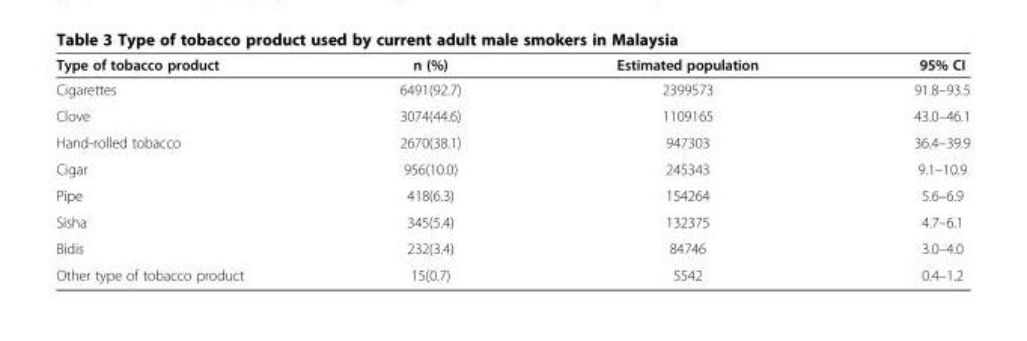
<table><thead><tr><td>Type of tobacco product</td><td>n (%)</td><td>Estimated population</td><td>95% CI</td></tr></thead><tbody><tr><td>Cigarettes</td><td>6491(92.7)</td><td>2399573</td><td>91.8–93.5</td></tr><tr><td>Clove</td><td>3074(44.6)</td><td>1109165</td><td>43.0–46.1</td></tr><tr><td>Hand-rolled tobacco</td><td>2670(38.1)</td><td>947303</td><td>36.4–39.9</td></tr><tr><td>Cigar</td><td>956(10.0)</td><td>245343</td><td>9.1–10.9</td></tr><tr><td>Pipe</td><td>418(6.3)</td><td>154264</td><td>5.6–6.9</td></tr><tr><td>Sisha</td><td>345(5.4)</td><td>132375</td><td>4.7–6.1</td></tr><tr><td>Bidis</td><td>232(3.4)</td><td>84746</td><td>3.0–4.0</td></tr><tr><td>Other type of tobacco product</td><td>15(0.7)</td><td>5542</td><td>0.4–1.2</td></tr></tbody></table>